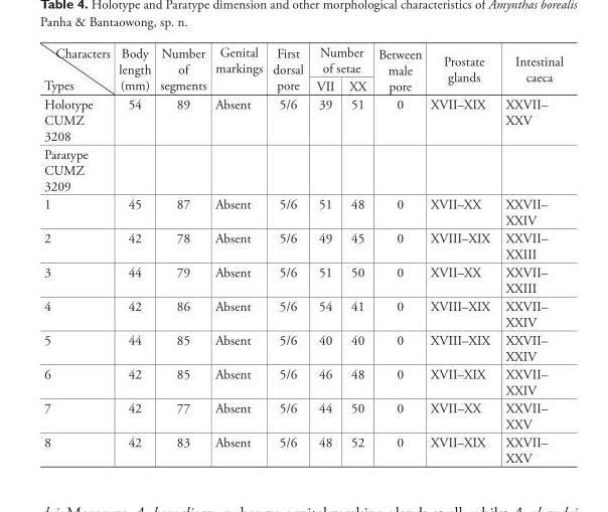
<table><thead><tr><td rowspan="2">Characters Types</td><td rowspan="2">Body length (mm)</td><td rowspan="2">Number of segments</td><td rowspan="2">Genital markings</td><td rowspan="2">First dorsal pore</td><td colspan="2">Number of setae</td><td rowspan="2">Between male pore</td><td rowspan="2">Prostate glands</td><td rowspan="2">Intestinal caeca</td></tr><tr><td>VII</td><td>XX</td></tr></thead><tbody><tr><td>Holotype CUMZ 3208</td><td>54</td><td>89</td><td>Absent</td><td>5/6</td><td>39</td><td>51</td><td>0</td><td>XVII–XIX</td><td>XXVII– XXV</td></tr><tr><td colspan="10">Paratype CUMZ 3209</td></tr><tr><td>1</td><td>45</td><td>87</td><td>Absent</td><td>5/6</td><td>51</td><td>48</td><td>0</td><td>XVII–XX</td><td>XXVII– XXIV</td></tr><tr><td>2</td><td>42</td><td>78</td><td>Absent</td><td>5/6</td><td>49</td><td>45</td><td>0</td><td>XVIII–XIX</td><td>XXVII– XXIII</td></tr><tr><td>3</td><td>44</td><td>79</td><td>Absent</td><td>5/6</td><td>51</td><td>50</td><td>0</td><td>XVII–XX</td><td>XXVII– XXIII</td></tr><tr><td>4</td><td>42</td><td>86</td><td>Absent</td><td>5/6</td><td>54</td><td>41</td><td>0</td><td>XVIII–XIX</td><td>XXVII– XXIV</td></tr><tr><td>5</td><td>44</td><td>85</td><td>Absent</td><td>5/6</td><td>40</td><td>40</td><td>0</td><td>XVIII–XIX</td><td>XXVII– XXIV</td></tr><tr><td>6</td><td>42</td><td>85</td><td>Absent</td><td>5/6</td><td>46</td><td>48</td><td>0</td><td>XVII–XIX</td><td>XXVII– XXIV</td></tr><tr><td>7</td><td>42</td><td>77</td><td>Absent</td><td>5/6</td><td>44</td><td>50</td><td>0</td><td>XVII–XX</td><td>XXVII– XXV</td></tr><tr><td>8</td><td>42</td><td>83</td><td>Absent</td><td>5/6</td><td>48</td><td>52</td><td>0</td><td>XVII–XIX</td><td>XXVII– XXV</td></tr></tbody></table>